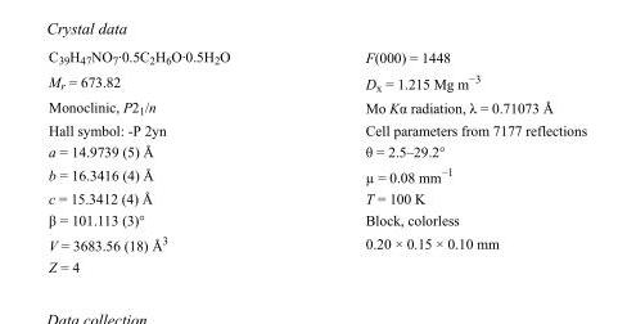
<table><tbody><tr><td>C<sub>39</sub>H<sub>47</sub>NO<sub>7</sub>·0.5C<sub>2</sub>H<sub>6</sub>O·0.5H<sub>2</sub>O</td><td>F(000) = 1448</td></tr><tr><td>M<sub>r</sub> = 673.82</td><td>D<sub>x</sub> = 1.215 Mg m<sup>−3</sup></td></tr><tr><td>Monoclinic, P2<sub>1</sub>/n</td><td>Mo Kα radiation, λ = 0.71073 Å</td></tr><tr><td>Hall symbol: -P 2yn</td><td>Cell parameters from 7177 reflections</td></tr><tr><td>a = 14.9739 (5) Å</td><td>θ = 2.5–29.2°</td></tr><tr><td>b = 16.3416 (4) Å</td><td>µ = 0.08 mm<sup>−1</sup></td></tr><tr><td>c = 15.3412 (4) Å</td><td>T = 100 K</td></tr><tr><td>β = 101.113 (3)°</td><td>Block, colorless</td></tr><tr><td>V = 3683.56 (18) Å<sup>3</sup></td><td>0.20 × 0.15 × 0.10 mm</td></tr><tr><td>Z = 4</td><td></td></tr></tbody></table>